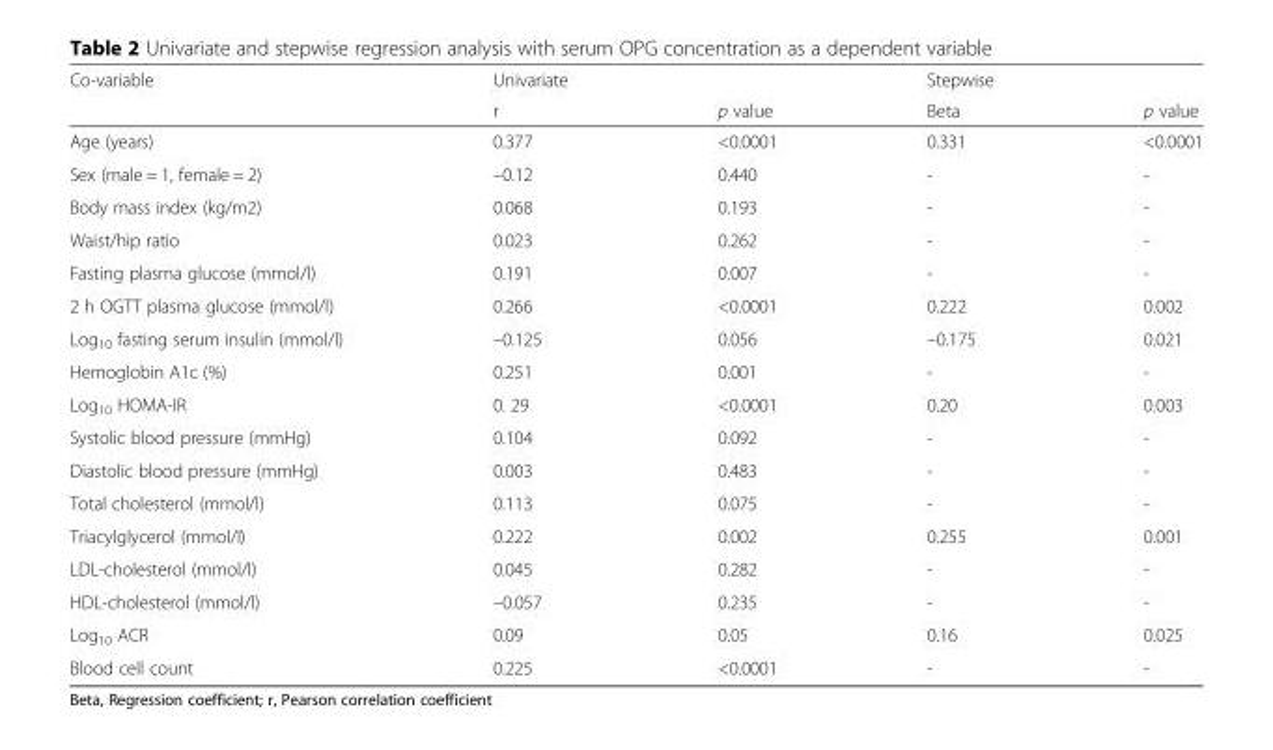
<table><thead><tr><td rowspan="2">Co-variable</td><td rowspan="2">Univariate r</td><td rowspan="2">p value</td><td rowspan="2">Stepwise Beta</td><td rowspan="2">p value</td></tr><tr></tr></thead><tbody><tr><td>Age (years)</td><td>0.377</td><td>&lt;0.0001</td><td>0.331</td><td>&lt;0.0001</td></tr><tr><td>Sex (male = 1, female = 2)</td><td>–0.12</td><td>0.440</td><td>-</td><td>-</td></tr><tr><td>Body mass index (kg/m2)</td><td>0.068</td><td>0.193</td><td>-</td><td>-</td></tr><tr><td>Waist/hip ratio</td><td>0.023</td><td>0.262</td><td>-</td><td>-</td></tr><tr><td>Fasting plasma glucose (mmol/l)</td><td>0.191</td><td>0.007</td><td>-</td><td>-</td></tr><tr><td>2 h OGTT plasma glucose (mmol/l)</td><td>0.266</td><td>&lt;0.0001</td><td>0.222</td><td>0.002</td></tr><tr><td>Log<sub>10</sub> fasting serum insulin (mmol/l)</td><td>–0.125</td><td>0.056</td><td>–0.175</td><td>0.021</td></tr><tr><td>Hemoglobin A1c (%)</td><td>0.251</td><td>0.001</td><td>-</td><td>-</td></tr><tr><td>Log<sub>10</sub> HOMA-IR</td><td>0. 29</td><td>&lt;0.0001</td><td>0.20</td><td>0.003</td></tr><tr><td>Systolic blood pressure (mmHg)</td><td>0.104</td><td>0.092</td><td>-</td><td>-</td></tr><tr><td>Diastolic blood pressure (mmHg)</td><td>0.003</td><td>0.483</td><td>-</td><td>-</td></tr><tr><td>Total cholesterol (mmol/l)</td><td>0.113</td><td>0.075</td><td>-</td><td>-</td></tr><tr><td>Triacylglycerol (mmol/l)</td><td>0.222</td><td>0.002</td><td>0.255</td><td>0.001</td></tr><tr><td>LDL-cholesterol (mmol/l)</td><td>0.045</td><td>0.282</td><td>-</td><td>-</td></tr><tr><td>HDL-cholesterol (mmol/l)</td><td>–0.057</td><td>0.235</td><td>-</td><td>-</td></tr><tr><td>Log<sub>10</sub> ACR</td><td>0.09</td><td>0.05</td><td>0.16</td><td>0.025</td></tr><tr><td>Blood cell count</td><td>0.225</td><td>&lt;0.0001</td><td>-</td><td>-</td></tr></tbody></table>